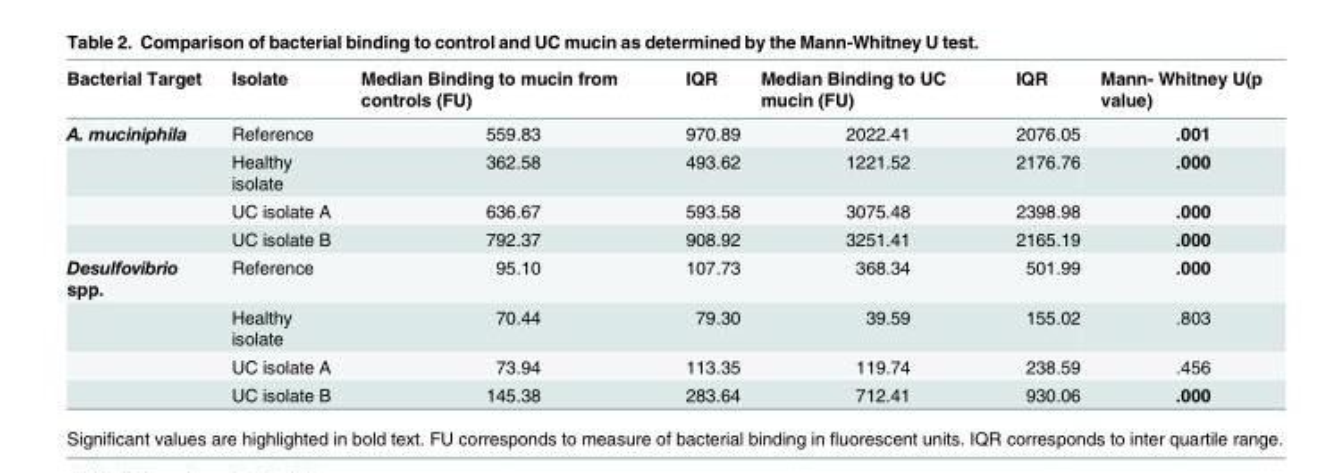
<table><thead><tr><td>Bacterial Target</td><td>Isolate</td><td>Median Binding to mucin from controls (FU)</td><td>IQR</td><td>Median Binding to UC mucin (FU)</td><td>IQR</td><td>Mann- Whitney U(p value)</td></tr></thead><tbody><tr><td rowspan="4">A. muciniphila</td><td>Reference</td><td>559.83</td><td>970.89</td><td>2022.41</td><td>2076.05</td><td>.001</td></tr><tr><td>Healthy isolate</td><td>362.58</td><td>493.62</td><td>1221.52</td><td>2176.76</td><td>.000</td></tr><tr><td>UC isolate A</td><td>636.67</td><td>593.58</td><td>3075.48</td><td>2398.98</td><td>.000</td></tr><tr><td>UC isolate B</td><td>792.37</td><td>908.92</td><td>3251.41</td><td>2165.19</td><td>.000</td></tr><tr><td rowspan="4">Desulfovibrio spp.</td><td>Reference</td><td>95.10</td><td>107.73</td><td>368.34</td><td>501.99</td><td>.000</td></tr><tr><td>Healthy isolate</td><td>70.44</td><td>79.30</td><td>39.59</td><td>155.02</td><td>.803</td></tr><tr><td>UC isolate A</td><td>73.94</td><td>113.35</td><td>119.74</td><td>238.59</td><td>.456</td></tr><tr><td>UC isolate B</td><td>145.38</td><td>283.64</td><td>712.41</td><td>930.06</td><td>.000</td></tr></tbody></table>